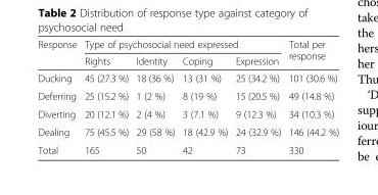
<table><thead><tr><td rowspan="2">Response</td><td colspan="4">Type of psychosocial need expressed</td><td rowspan="2">Total per response</td></tr><tr><td>Rights</td><td>Identity</td><td>Coping</td><td>Expression</td></tr></thead><tbody><tr><td>Ducking</td><td>45 (27.3 %)</td><td>18 (36 %)</td><td>13 (31 %)</td><td>25 (34.2 %)</td><td>101 (30.6 %)</td></tr><tr><td>Deferring</td><td>25 (15.2 %)</td><td>1 (2 %)</td><td>8 (19 %)</td><td>15 (20.5 %)</td><td>49 (14.8 %)</td></tr><tr><td>Diverting</td><td>20 (12.1 %)</td><td>2 (4 %)</td><td>3 (7.1 %)</td><td>9 (12.3 %)</td><td>34 (10.3 %)</td></tr><tr><td>Dealing</td><td>75 (45.5 %)</td><td>29 (58 %)</td><td>18 (42.9 %)</td><td>24 (32.9 %)</td><td>146 (44.2 %)</td></tr><tr><td>Total</td><td>165</td><td>50</td><td>42</td><td>73</td><td>330</td></tr></tbody></table>